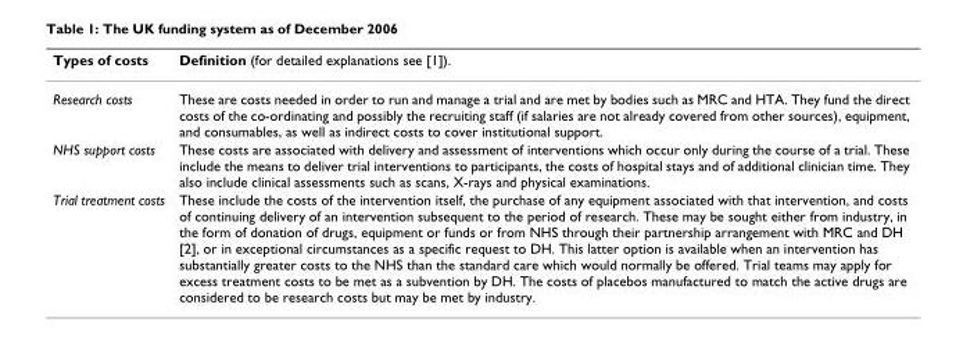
<table><thead><tr><td>Types of costs</td><td>Definition (for detailed explanations see [1]).</td></tr></thead><tbody><tr><td>Research costs</td><td>These are costs needed in order to run and manage a trial and are met by bodies such as MRC and HTA. They fund the direct costs of the co-ordinating and possibly the recruiting staff (if salaries are not already covered from other sources), equipment, and consumables, as well as indirect costs to cover institutional support.</td></tr><tr><td>NHS support costs</td><td>These costs are associated with delivery and assessment of interventions which occur only during the course of a trial. These include the means to deliver trial interventions to participants, the costs of hospital stays and of additional clinician time. They also include clinical assessments such as scans, X-rays and physical examinations.</td></tr><tr><td>Trial treatment costs</td><td>These include the costs of the intervention itself, the purchase of any equipment associated with that intervention, and costs of continuing delivery of an intervention subsequent to the period of research. These may be sought either from industry, in the form of donation of drugs, equipment or funds or from NHS through their partnership arrangement with MRC and DH [2], or in exceptional circumstances as a specific request to DH. This latter option is available when an intervention has substantially greater costs to the NHS than the standard care which would normally be offered. Trial teams may apply for excess treatment costs to be met as a subvention by DH. The costs of placebos manufactured to match the active drugs are considered to be research costs but may be met by industry.</td></tr></tbody></table>